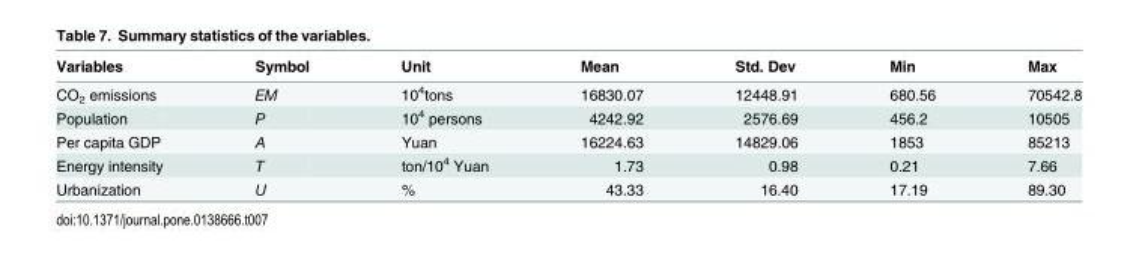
<table><thead><tr><td>Variables</td><td>Symbol</td><td>Unit</td><td>Mean</td><td>Std. Dev</td><td>Min</td><td>Max</td></tr></thead><tbody><tr><td>CO<sub>2</sub> emissions</td><td>EM</td><td>10<sup>4</sup>tons</td><td>16830.07</td><td>12448.91</td><td>680.56</td><td>70542.8</td></tr><tr><td>Population</td><td>P</td><td>10<sup>4</sup> persons</td><td>4242.92</td><td>2576.69</td><td>456.2</td><td>10505</td></tr><tr><td>Per capita GDP</td><td>A</td><td>Yuan</td><td>16224.63</td><td>14829.06</td><td>1853</td><td>85213</td></tr><tr><td>Energy intensity</td><td>T</td><td>ton/10<sup>4</sup> Yuan</td><td>1.73</td><td>0.98</td><td>0.21</td><td>7.66</td></tr><tr><td>Urbanization</td><td>U</td><td>%</td><td>43.33</td><td>16.40</td><td>17.19</td><td>89.30</td></tr></tbody></table>